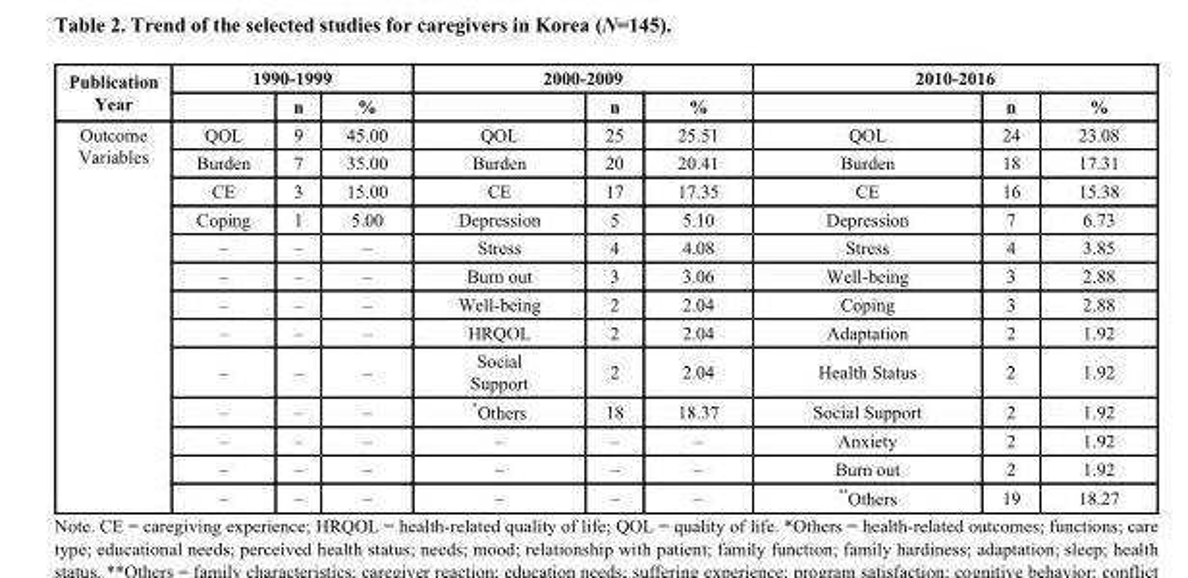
<table><thead><tr><td rowspan="2">Publication Year</td><td colspan="3">1990-1999</td><td colspan="3">2000-2009</td><td colspan="3">2010-2016</td></tr><tr><td></td><td>n</td><td>%</td><td></td><td>n</td><td>%</td><td></td><td>n</td><td>%</td></tr></thead><tbody><tr><td rowspan="13">Outcome Variables</td><td>QOL</td><td>9</td><td>45.00</td><td>QOL</td><td>25</td><td>25.51</td><td>QOL</td><td>24</td><td>23.08</td></tr><tr><td>Burden</td><td>7</td><td>35.00</td><td>Burden</td><td>20</td><td>20.41</td><td>Burden</td><td>18</td><td>17.31</td></tr><tr><td>CE</td><td>3</td><td>15.00</td><td>CE</td><td>17</td><td>17.35</td><td>CE</td><td>16</td><td>15.38</td></tr><tr><td>Coping</td><td>1</td><td>5.00</td><td>Depression</td><td>5</td><td>5.10</td><td>Depression</td><td>7</td><td>6.73</td></tr><tr><td>–</td><td>–</td><td>–</td><td>Stress</td><td>4</td><td>4.08</td><td>Stress</td><td>4</td><td>3.85</td></tr><tr><td>–</td><td>–</td><td>–</td><td>Burn out</td><td>3</td><td>3.06</td><td>Well-being</td><td>3</td><td>2.88</td></tr><tr><td>–</td><td>–</td><td>–</td><td>Well-being</td><td>2</td><td>2.04</td><td>Coping</td><td>3</td><td>2.88</td></tr><tr><td>–</td><td>–</td><td>–</td><td>HRQOL</td><td>2</td><td>2.04</td><td>Adaptation</td><td>2</td><td>1.92</td></tr><tr><td>–</td><td>–</td><td>–</td><td>Social Support</td><td>2</td><td>2.04</td><td>Health Status</td><td>2</td><td>1.92</td></tr><tr><td>–</td><td>–</td><td>–</td><td>*Others</td><td>18</td><td>18.37</td><td>Social Support</td><td>2</td><td>1.92</td></tr><tr><td>–</td><td>–</td><td>–</td><td>–</td><td>–</td><td>–</td><td>Anxiety</td><td>2</td><td>1.92</td></tr><tr><td>–</td><td>–</td><td>–</td><td>–</td><td>–</td><td>–</td><td>Burn out</td><td>2</td><td>1.92</td></tr><tr><td>–</td><td>–</td><td>–</td><td>–</td><td>–</td><td>–</td><td>**Others</td><td>19</td><td>18.27</td></tr></tbody></table>